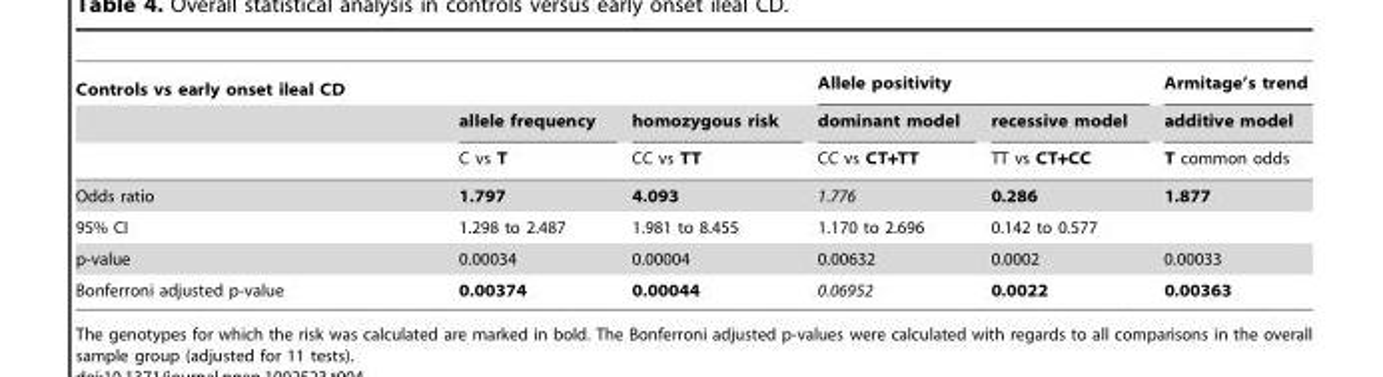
<table><thead><tr><td rowspan="3">Controls vs early onset ileal CD</td><td rowspan="3">allele frequency C vs T</td><td rowspan="3">homozygous risk CC vs TT</td><td colspan="2">Allele positivity</td><td rowspan="3">Armitage’s trend additive model T common odds</td></tr><tr><td rowspan="2">dominant model CC vs CT+TT</td><td rowspan="2">recessive model TT vs CT+CC</td></tr><tr></tr></thead><tbody><tr><td>Odds ratio</td><td>1.797</td><td>4.093</td><td>1.776</td><td>0.286</td><td>1.877</td></tr><tr><td>95% CI</td><td>1.298 to 2.487</td><td>1.981 to 8.455</td><td>1.170 to 2.696</td><td>0.142 to 0.577</td><td></td></tr><tr><td>p-value</td><td>0.00034</td><td>0.00004</td><td>0.00632</td><td>0.0002</td><td>0.00033</td></tr><tr><td>Bonferroni adjusted p-value</td><td>0.00374</td><td>0.00044</td><td>0.06952</td><td>0.0022</td><td>0.00363</td></tr></tbody></table>